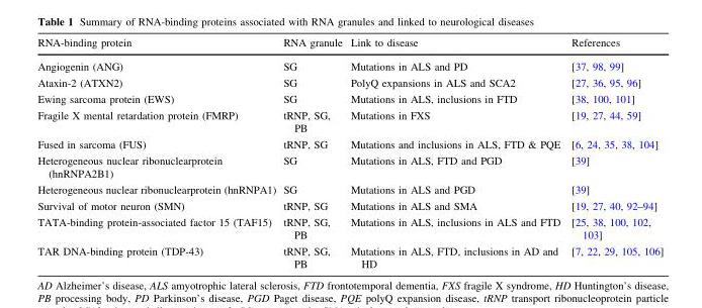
<table><thead><tr><td>RNA-binding protein</td><td>RNA granule</td><td>Link to disease</td><td>References</td></tr></thead><tbody><tr><td>Angiogenin (ANG)</td><td>SG</td><td>Mutations in ALS and PD</td><td>[37, 98, 99]</td></tr><tr><td>Ataxin-2 (ATXN2)</td><td>SG</td><td>PolyQ expansions in ALS and SCA2</td><td>[27, 36, 95, 96]</td></tr><tr><td>Ewing sarcoma protein (EWS)</td><td>SG</td><td>Mutations in ALS, inclusions in FTD</td><td>[38, 100, 101]</td></tr><tr><td>Fragile X mental retardation protein (FMRP)</td><td>tRNP, SG, PB</td><td>Mutations in FXS</td><td>[19, 27, 44, 59]</td></tr><tr><td>Fused in sarcoma (FUS)</td><td>tRNP, SG</td><td>Mutations and inclusions in ALS, FTD &amp; PQE</td><td>[6, 24, 35, 38, 104]</td></tr><tr><td>Heterogeneous nuclear ribonuclearprotein (hnRNPA2B1)</td><td>SG</td><td>Mutations in ALS, FTD and PGD</td><td>[39]</td></tr><tr><td>Heterogeneous nuclear ribonuclearprotein (hnRNPA1)</td><td>SG</td><td>Mutations in ALS and PGD</td><td>[39]</td></tr><tr><td>Survival of motor neuron (SMN)</td><td>tRNP, SG</td><td>Mutations in ALS and SMA</td><td>[19, 27, 40, 92–94]</td></tr><tr><td>TATA-binding protein-associated factor 15 (TAF15)</td><td>tRNP, SG, PB</td><td>Mutations in ALS, inclusions in ALS and FTD</td><td>[25, 38, 100, 102, 103]</td></tr><tr><td>TAR DNA-binding protein (TDP-43)</td><td>tRNP, SG, PB</td><td>Mutations in ALS, FTD, inclusions in AD and HD</td><td>[7, 22, 29, 105, 106]</td></tr></tbody></table>